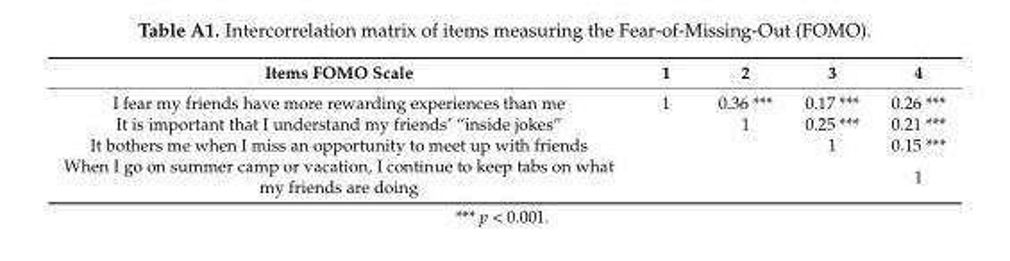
<table><thead><tr><td>Items FOMO Scale</td><td>1</td><td>2</td><td>3</td><td>4</td></tr></thead><tbody><tr><td>I fear my friends have more rewarding experiences than me</td><td>1</td><td>0.36 ***</td><td>0.17 ***</td><td>0.26 ***</td></tr><tr><td>It is important that I understand my friends’ “inside jokes”</td><td></td><td>1</td><td>0.25 ***</td><td>0.21 ***</td></tr><tr><td>It bothers me when I miss an opportunity to meet up with friends</td><td></td><td></td><td>1</td><td>0.15 ***</td></tr><tr><td>When I go on summer camp or vacation, I continue to keep tabs on what my friends are doing</td><td></td><td></td><td></td><td>1</td></tr></tbody></table>